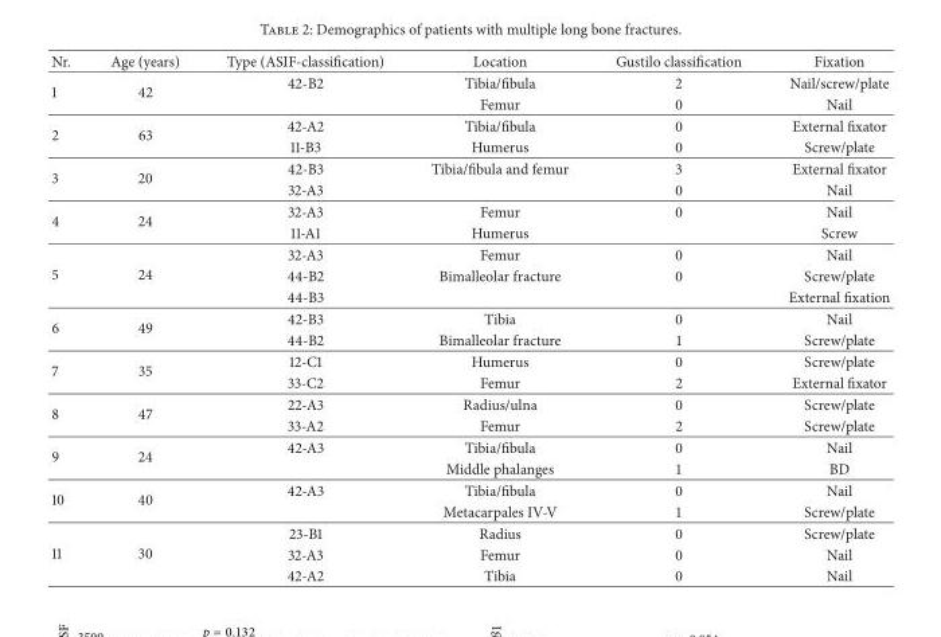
<table><thead><tr><td>Nr.</td><td>Age (years)</td><td>Type (ASIF-classification)</td><td>Location</td><td>Gustilo classification</td><td>Fixation</td></tr></thead><tbody><tr><td rowspan="2">1</td><td rowspan="2">42</td><td>42-B2</td><td>Tibia/fibula</td><td>2</td><td>Nail/screw/plate</td></tr><tr><td></td><td>Femur</td><td>0</td><td>Nail</td></tr><tr><td rowspan="2">2</td><td rowspan="2">63</td><td>42-A2</td><td>Tibia/fibula</td><td>0</td><td>External fixator</td></tr><tr><td>11-B3</td><td>Humerus</td><td>0</td><td>Screw/plate</td></tr><tr><td rowspan="2">3</td><td rowspan="2">20</td><td>42-B3</td><td>Tibia/fibula and femur</td><td>3</td><td>External fixator</td></tr><tr><td>32-A3</td><td></td><td>0</td><td>Nail</td></tr><tr><td rowspan="2">4</td><td rowspan="2">24</td><td>32-A3</td><td>Femur</td><td>0</td><td>Nail</td></tr><tr><td>11-A1</td><td>Humerus</td><td></td><td>Screw</td></tr><tr><td rowspan="3">5</td><td rowspan="3">24</td><td>32-A3</td><td>Femur</td><td>0</td><td>Nail</td></tr><tr><td>44-B2</td><td>Bimalleolar fracture</td><td>0</td><td>Screw/plate</td></tr><tr><td>44-B3</td><td></td><td></td><td>External fixation</td></tr><tr><td rowspan="2">6</td><td rowspan="2">49</td><td>42-B3</td><td>Tibia</td><td>0</td><td>Nail</td></tr><tr><td>44-B2</td><td>Bimalleolar fracture</td><td>1</td><td>Screw/plate</td></tr><tr><td rowspan="2">7</td><td rowspan="2">35</td><td>12-C1</td><td>Humerus</td><td>0</td><td>Screw/plate</td></tr><tr><td>33-C2</td><td>Femur</td><td>2</td><td>External fixator</td></tr><tr><td rowspan="2">8</td><td rowspan="2">47</td><td>22-A3</td><td>Radius/ulna</td><td>0</td><td>Screw/plate</td></tr><tr><td>33-A2</td><td>Femur</td><td>2</td><td>Screw/plate</td></tr><tr><td rowspan="2">9</td><td rowspan="2">24</td><td>42-A3</td><td>Tibia/fibula</td><td>0</td><td>Nail</td></tr><tr><td></td><td>Middle phalanges</td><td>1</td><td>BD</td></tr><tr><td rowspan="2">10</td><td rowspan="2">40</td><td>42-A3</td><td>Tibia/fibula</td><td>0</td><td>Nail</td></tr><tr><td></td><td>Metacarpales IV-V</td><td>1</td><td>Screw/plate</td></tr><tr><td rowspan="3">11</td><td rowspan="3">30</td><td>23-B1</td><td>Radius</td><td>0</td><td>Screw/plate</td></tr><tr><td>32-A3</td><td>Femur</td><td>0</td><td>Nail</td></tr><tr><td>42-A2</td><td>Tibia</td><td>0</td><td>Nail</td></tr></tbody></table>